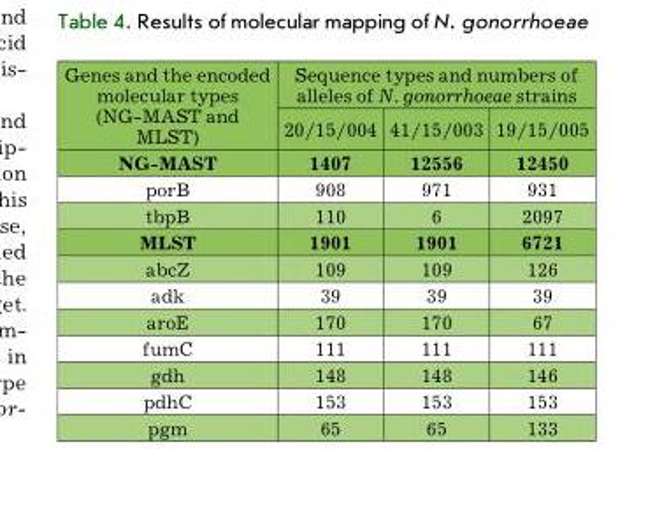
<table><thead><tr><td rowspan="2">Genes and the encoded molecular types (NG-MAST and MLST)</td><td colspan="3">Sequence types and numbers of alleles of N. gonorrhoeae strains</td></tr><tr><td>20/15/004</td><td>41/15/003</td><td>19/15/005</td></tr></thead><tbody><tr><td>NG-MAST</td><td>1407</td><td>12556</td><td>12450</td></tr><tr><td>porB</td><td>908</td><td>971</td><td>931</td></tr><tr><td>tbpB</td><td>110</td><td>6</td><td>2097</td></tr><tr><td>MLST</td><td>1901</td><td>1901</td><td>6721</td></tr><tr><td>abcZ</td><td>109</td><td>109</td><td>126</td></tr><tr><td>adk</td><td>39</td><td>39</td><td>39</td></tr><tr><td>aroE</td><td>170</td><td>170</td><td>67</td></tr><tr><td>fumC</td><td>111</td><td>111</td><td>111</td></tr><tr><td>gdh</td><td>148</td><td>148</td><td>146</td></tr><tr><td>pdhC</td><td>153</td><td>153</td><td>153</td></tr><tr><td>pgm</td><td>65</td><td>65</td><td>133</td></tr></tbody></table>